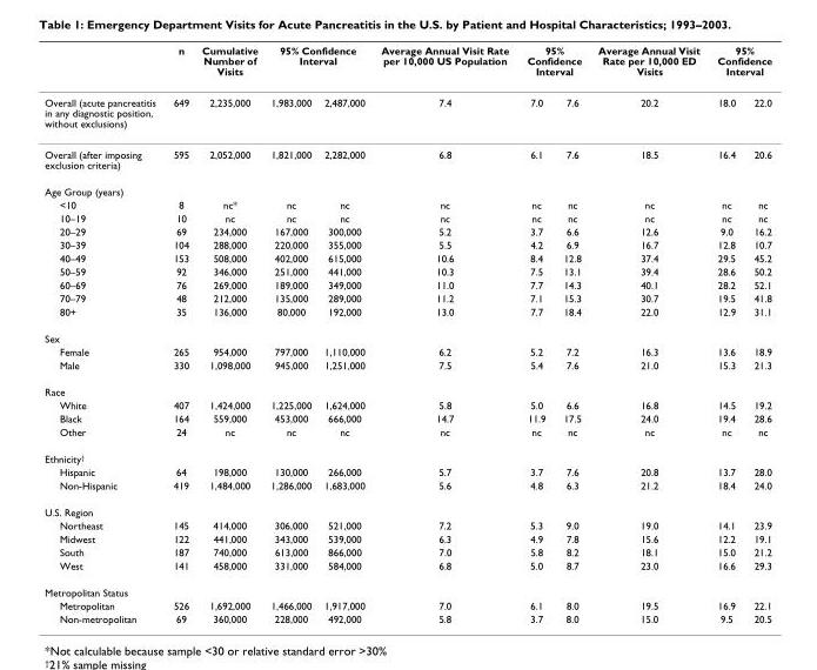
<table><thead><tr><td rowspan="2">Overall (acute pancreatitis in any diagnostic position, without exclusions)</td><td rowspan="2">n 649</td><td rowspan="2">Cumulative Number of Visits 2,235,000</td><td colspan="2">95% Confidence Interval</td><td rowspan="2">Average Annual Visit Rate per 10,000 US Population 7.4</td><td colspan="2">95% Confidence Interval</td><td rowspan="2">Average Annual Visit Rate per 10,000 ED Visits 20.2</td><td colspan="2">95% Confidence Interval</td></tr><tr><td>1,983,000</td><td>2,487,000</td><td>7.0</td><td>7.6</td><td>18.0</td><td>22.0</td></tr></thead><tbody><tr><td>Overall (after imposing exclusion criteria)</td><td>595</td><td>2,052,000</td><td>1,821,000</td><td>2,282,000</td><td>6.8</td><td>6.1</td><td>7.6</td><td>18.5</td><td>16.4</td><td>20.6</td></tr><tr><td colspan="11">Age Group (years)</td></tr><tr><td>&lt;10</td><td>8</td><td>nc*</td><td>nc</td><td>nc</td><td>nc</td><td>nc</td><td>nc</td><td>nc</td><td>nc</td><td>nc</td></tr><tr><td>10–19</td><td>10</td><td>nc</td><td>nc</td><td>nc</td><td>nc</td><td>nc</td><td>nc</td><td>nc</td><td>nc</td><td>nc</td></tr><tr><td>20–29</td><td>69</td><td>234,000</td><td>167,000</td><td>300,000</td><td>5.2</td><td>3.7</td><td>6.6</td><td>12.6</td><td>9.0</td><td>16.2</td></tr><tr><td>30–39</td><td>104</td><td>288,000</td><td>220,000</td><td>355,000</td><td>5.5</td><td>4.2</td><td>6.9</td><td>16.7</td><td>12.8</td><td>10.7</td></tr><tr><td>40–49</td><td>153</td><td>508,000</td><td>402,000</td><td>615,000</td><td>10.6</td><td>8.4</td><td>12.8</td><td>37.4</td><td>29.5</td><td>45.2</td></tr><tr><td>50–59</td><td>92</td><td>346,000</td><td>251,000</td><td>441,000</td><td>10.3</td><td>7.5</td><td>13.1</td><td>39.4</td><td>28.6</td><td>50.2</td></tr><tr><td>60–69</td><td>76</td><td>269,000</td><td>189,000</td><td>349,000</td><td>11.0</td><td>7.7</td><td>14.3</td><td>40.1</td><td>28.2</td><td>52.1</td></tr><tr><td>70–79</td><td>48</td><td>212,000</td><td>135,000</td><td>289,000</td><td>11.2</td><td>7.1</td><td>15.3</td><td>30.7</td><td>19.5</td><td>41.8</td></tr><tr><td>80+</td><td>35</td><td>136,000</td><td>80,000</td><td>192,000</td><td>13.0</td><td>7.7</td><td>18.4</td><td>22.0</td><td>12.9</td><td>31.1</td></tr><tr><td colspan="11">Sex</td></tr><tr><td>Female</td><td>265</td><td>954,000</td><td>797,000</td><td>1,110,000</td><td>6.2</td><td>5.2</td><td>7.2</td><td>16.3</td><td>13.6</td><td>18.9</td></tr><tr><td>Male</td><td>330</td><td>1,098,000</td><td>945,000</td><td>1,251,000</td><td>7.5</td><td>5.4</td><td>7.6</td><td>21.0</td><td>15.3</td><td>21.3</td></tr><tr><td colspan="11">Race</td></tr><tr><td>White</td><td>407</td><td>1,424,000</td><td>1,225,000</td><td>1,624,000</td><td>5.8</td><td>5.0</td><td>6.6</td><td>16.8</td><td>14.5</td><td>19.2</td></tr><tr><td>Black</td><td>164</td><td>559,000</td><td>453,000</td><td>666,000</td><td>14.7</td><td>11.9</td><td>17.5</td><td>24.0</td><td>19.4</td><td>28.6</td></tr><tr><td>Other</td><td>24</td><td>nc</td><td>nc</td><td>nc</td><td>nc</td><td>nc</td><td>nc</td><td>nc</td><td>nc</td><td>nc</td></tr><tr><td colspan="11">Ethnicity<sup>†</sup></td></tr><tr><td>Hispanic</td><td>64</td><td>198,000</td><td>130,000</td><td>266,000</td><td>5.7</td><td>3.7</td><td>7.6</td><td>20.8</td><td>13.7</td><td>28.0</td></tr><tr><td>Non-Hispanic</td><td>419</td><td>1,484,000</td><td>1,286,000</td><td>1,683,000</td><td>5.6</td><td>4.8</td><td>6.3</td><td>21.2</td><td>18.4</td><td>24.0</td></tr><tr><td colspan="11">U.S. Region</td></tr><tr><td>Northeast</td><td>145</td><td>414,000</td><td>306,000</td><td>521,000</td><td>7.2</td><td>5.3</td><td>9.0</td><td>19.0</td><td>14.1</td><td>23.9</td></tr><tr><td>Midwest</td><td>122</td><td>441,000</td><td>343,000</td><td>539,000</td><td>6.3</td><td>4.9</td><td>7.8</td><td>15.6</td><td>12.2</td><td>19.1</td></tr><tr><td>South</td><td>187</td><td>740,000</td><td>613,000</td><td>866,000</td><td>7.0</td><td>5.8</td><td>8.2</td><td>18.1</td><td>15.0</td><td>21.2</td></tr><tr><td>West</td><td>141</td><td>458,000</td><td>331,000</td><td>584,000</td><td>6.8</td><td>5.0</td><td>8.7</td><td>23.0</td><td>16.6</td><td>29.3</td></tr><tr><td colspan="11">Metropolitan Status</td></tr><tr><td>Metropolitan</td><td>526</td><td>1,692,000</td><td>1,466,000</td><td>1,917,000</td><td>7.0</td><td>6.1</td><td>8.0</td><td>19.5</td><td>16.9</td><td>22.1</td></tr><tr><td>Non-metropolitan</td><td>69</td><td>360,000</td><td>228,000</td><td>492,000</td><td>5.8</td><td>3.7</td><td>8.0</td><td>15.0</td><td>9.5</td><td>20.5</td></tr></tbody></table>